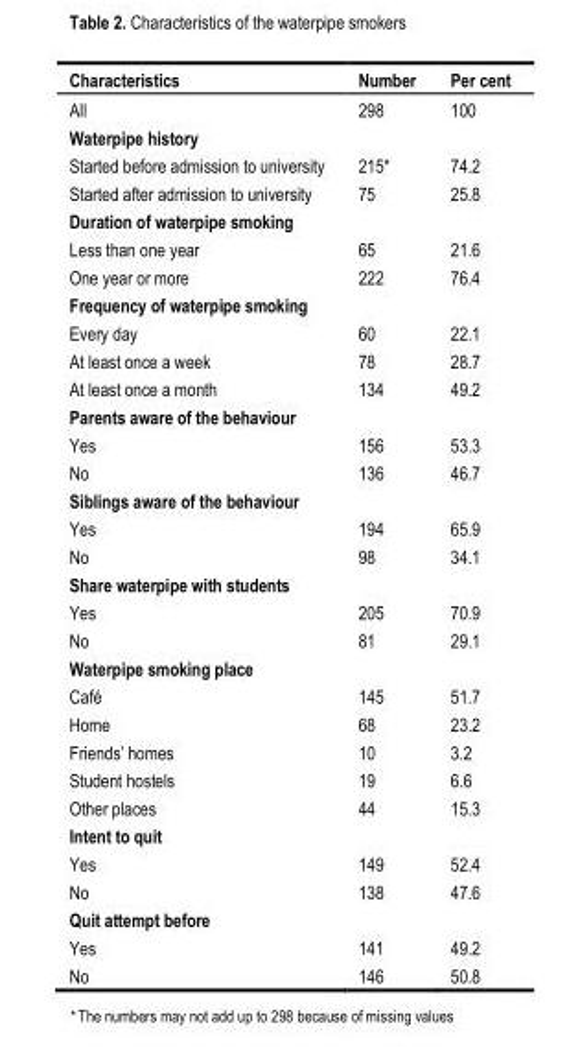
<table><thead><tr><td>Characteristics</td><td>Number</td><td>Per cent</td></tr></thead><tbody><tr><td>All</td><td>298</td><td>100</td></tr><tr><td colspan="3">Waterpipe history</td></tr><tr><td>Started before admission to university</td><td>215*</td><td>74.2</td></tr><tr><td>Started after admission to university</td><td>75</td><td>25.8</td></tr><tr><td colspan="3">Duration of waterpipe smoking</td></tr><tr><td>Less than one year</td><td>65</td><td>21.6</td></tr><tr><td>One year or more</td><td>222</td><td>76.4</td></tr><tr><td colspan="3">Frequency of waterpipe smoking</td></tr><tr><td>Every day</td><td>60</td><td>22.1</td></tr><tr><td>At least once a week</td><td>78</td><td>28.7</td></tr><tr><td>At least once a month</td><td>134</td><td>49.2</td></tr><tr><td colspan="3">Parents aware of the behaviour</td></tr><tr><td>Yes</td><td>156</td><td>53.3</td></tr><tr><td>No</td><td>136</td><td>46.7</td></tr><tr><td colspan="3">Siblings aware of the behaviour</td></tr><tr><td>Yes</td><td>194</td><td>65.9</td></tr><tr><td>No</td><td>98</td><td>34.1</td></tr><tr><td colspan="3">Share waterpipe with students</td></tr><tr><td>Yes</td><td>205</td><td>70.9</td></tr><tr><td>No</td><td>81</td><td>29.1</td></tr><tr><td colspan="3">Waterpipe smoking place</td></tr><tr><td>Café</td><td>145</td><td>51.7</td></tr><tr><td>Home</td><td>68</td><td>23.2</td></tr><tr><td>Friends’ homes</td><td>10</td><td>3.2</td></tr><tr><td>Student hostels</td><td>19</td><td>6.6</td></tr><tr><td>Other places</td><td>44</td><td>15.3</td></tr><tr><td colspan="3">Intent to quit</td></tr><tr><td>Yes</td><td>149</td><td>52.4</td></tr><tr><td>No</td><td>138</td><td>47.6</td></tr><tr><td colspan="3">Quit attempt before</td></tr><tr><td>Yes</td><td>141</td><td>49.2</td></tr><tr><td>No</td><td>146</td><td>50.8</td></tr></tbody></table>